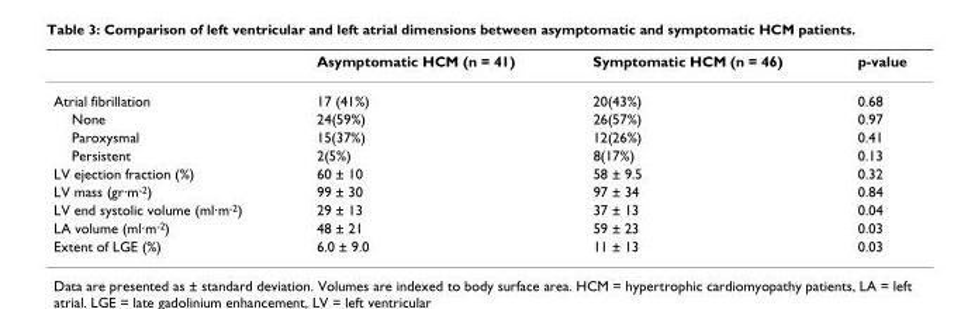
<table><thead><tr><td></td><td>Asymptomatic HCM (n = 41)</td><td>Symptomatic HCM (n = 46)</td><td>p-value</td></tr></thead><tbody><tr><td>Atrial fibrillation</td><td>17 (41%)</td><td>20(43%)</td><td>0.68</td></tr><tr><td>None</td><td>24(59%)</td><td>26(57%)</td><td>0.97</td></tr><tr><td>Paroxysmal</td><td>15(37%)</td><td>12(26%)</td><td>0.41</td></tr><tr><td>Persistent</td><td>2(5%)</td><td>8(17%)</td><td>0.13</td></tr><tr><td>LV ejection fraction (%)</td><td>60 ± 10</td><td>58 ± 9.5</td><td>0.32</td></tr><tr><td>LV mass (gr·m<sup>-2</sup>)</td><td>99 ± 30</td><td>97 ± 34</td><td>0.84</td></tr><tr><td>LV end systolic volume (ml·m<sup>-2</sup>)</td><td>29 ± 13</td><td>37 ± 13</td><td>0.04</td></tr><tr><td>LA volume (ml·m<sup>-2</sup>)</td><td>48 ± 21</td><td>59 ± 23</td><td>0.03</td></tr><tr><td>Extent of LGE (%)</td><td>6.0 ± 9.0</td><td>11 ± 13</td><td>0.03</td></tr></tbody></table>